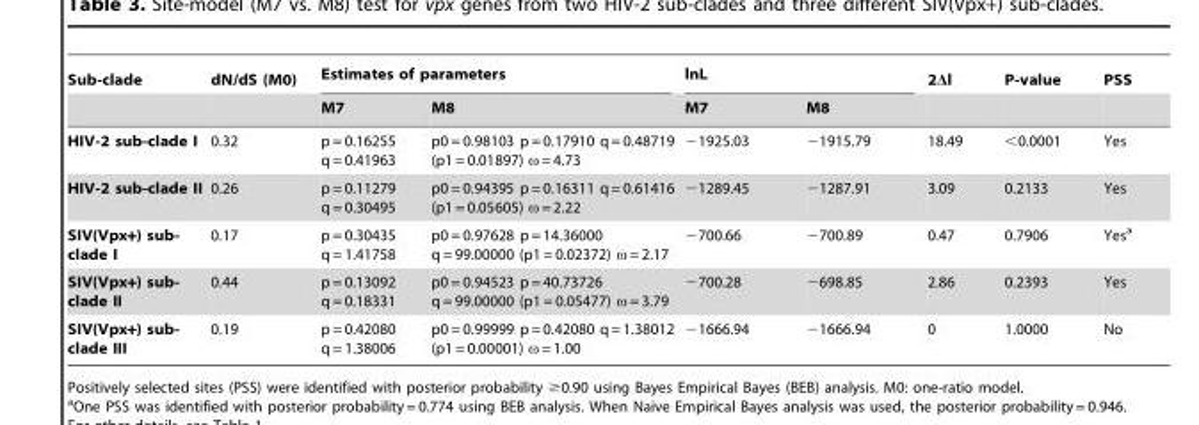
<table><thead><tr><td rowspan="2">Sub-clade</td><td rowspan="2">dN/dS (M0)</td><td colspan="2">Estimates of parameters</td><td colspan="2">lnL</td><td rowspan="2">2Δl</td><td rowspan="2">P-value</td><td rowspan="2">PSS</td></tr><tr><td>M7</td><td>M8</td><td>M7</td><td>M8</td></tr></thead><tbody><tr><td>HIV-2 sub-clade I</td><td>0.32</td><td>p = 0.16255 q = 0.41963</td><td>p0 = 0.98103 p = 0.17910 q = 0.48719 (p1 = 0.01897) ω = 4.73</td><td>−1925.03</td><td>−1915.79</td><td>18.49</td><td>&lt;0.0001</td><td>Yes</td></tr><tr><td>HIV-2 sub-clade II</td><td>0.26</td><td>p = 0.11279 q = 0.30495</td><td>p0 = 0.94395 p = 0.16311 q = 0.61416 (p1 = 0.05605) ω = 2.22</td><td>−1289.45</td><td>−1287.91</td><td>3.09</td><td>0.2133</td><td>Yes</td></tr><tr><td>SIV(Vpx+) sub- clade I</td><td>0.17</td><td>p = 0.30435 q = 1.41758</td><td>p0 = 0.97628 p = 14.36000 q = 99.00000 (p1 = 0.02372) ω = 2.17</td><td>−700.66</td><td>−700.89</td><td>0.47</td><td>0.7906</td><td>Yes<sup>a</sup></td></tr><tr><td>SIV(Vpx+) sub- clade II</td><td>0.44</td><td>p = 0.13092 q = 0.18331</td><td>p0 = 0.94523 p = 40.73726 q = 99.00000 (p1 = 0.05477) ω = 3.79</td><td>−700.28</td><td>−698.85</td><td>2.86</td><td>0.2393</td><td>Yes</td></tr><tr><td>SIV(Vpx+) sub- clade III</td><td>0.19</td><td>p = 0.42080 q = 1.38006</td><td>p0 = 0.99999 p = 0.42080 q = 1.38012 (p1 = 0.00001) ω = 1.00</td><td>−1666.94</td><td>−1666.94</td><td>0</td><td>1.0000</td><td>No</td></tr></tbody></table>